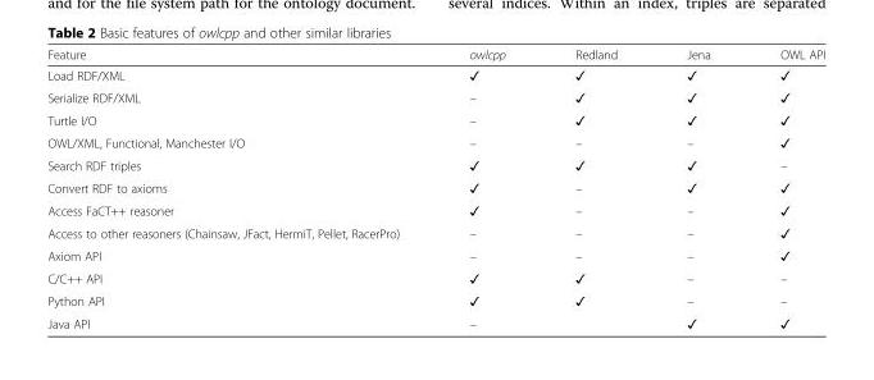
<table><thead><tr><td>Feature</td><td>owlcpp</td><td>Redland</td><td>Jena</td><td>OWL API</td></tr></thead><tbody><tr><td>Load RDF/XML</td><td>✓</td><td>✓</td><td>✓</td><td>✓</td></tr><tr><td>Serialize RDF/XML</td><td>–</td><td>✓</td><td>✓</td><td>✓</td></tr><tr><td>Turtle I/O</td><td>–</td><td>✓</td><td>✓</td><td>✓</td></tr><tr><td>OWL/XML, Functional, Manchester I/O</td><td>–</td><td>–</td><td>–</td><td>✓</td></tr><tr><td>Search RDF triples</td><td>✓</td><td>✓</td><td>✓</td><td>–</td></tr><tr><td>Convert RDF to axioms</td><td>✓</td><td>–</td><td>✓</td><td>✓</td></tr><tr><td>Access FaCT++ reasoner</td><td>✓</td><td>–</td><td>–</td><td>✓</td></tr><tr><td>Access to other reasoners (Chainsaw, JFact, HermiT, Pellet, RacerPro)</td><td>–</td><td>–</td><td>–</td><td>✓</td></tr><tr><td>Axiom API</td><td>–</td><td>–</td><td>–</td><td>✓</td></tr><tr><td>C/C++ API</td><td>✓</td><td>✓</td><td>–</td><td>–</td></tr><tr><td>Python API</td><td>✓</td><td>✓</td><td>–</td><td>–</td></tr><tr><td>Java API</td><td>–</td><td></td><td>✓</td><td>✓</td></tr></tbody></table>